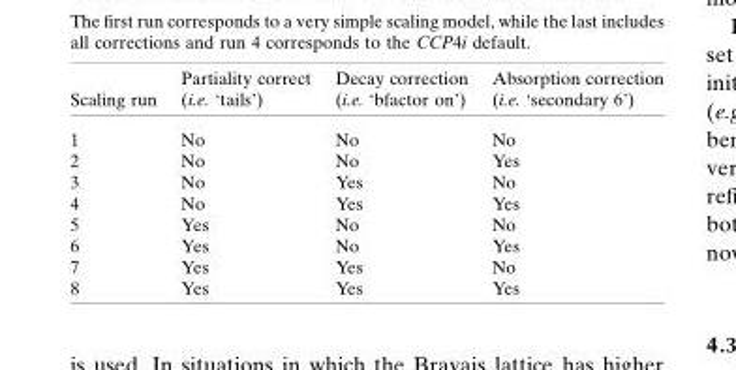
<table><thead><tr><td>Scaling run</td><td>Partiality correct (i.e. ‘tails’)</td><td>Decay correction (i.e. ‘bfactor on’)</td><td>Absorption correction (i.e. ‘secondary 6’)</td></tr></thead><tbody><tr><td>1</td><td>No</td><td>No</td><td>No</td></tr><tr><td>2</td><td>No</td><td>No</td><td>Yes</td></tr><tr><td>3</td><td>No</td><td>Yes</td><td>No</td></tr><tr><td>4</td><td>No</td><td>Yes</td><td>Yes</td></tr><tr><td>5</td><td>Yes</td><td>No</td><td>No</td></tr><tr><td>6</td><td>Yes</td><td>No</td><td>Yes</td></tr><tr><td>7</td><td>Yes</td><td>Yes</td><td>No</td></tr><tr><td>8</td><td>Yes</td><td>Yes</td><td>Yes</td></tr></tbody></table>